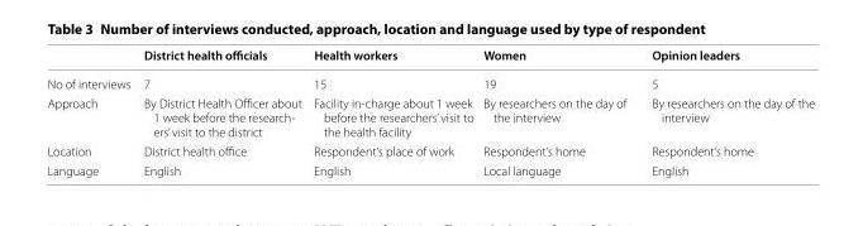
<table><thead><tr><td></td><td>District health officials</td><td>Health workers</td><td>Women</td><td>Opinion leaders</td></tr></thead><tbody><tr><td>No of interviews</td><td>7</td><td>15</td><td>19</td><td>5</td></tr><tr><td>Approach</td><td>By District Health Officer about 1 week before the research- ers’ visit to the district</td><td>Facility in-charge about 1 week before the researchers’ visit to the health facility</td><td>By researchers on the day of the interview</td><td>By researchers on the day of the interview</td></tr><tr><td>Location</td><td>District health office</td><td>Respondent’s place of work</td><td>Respondent’s home</td><td>Respondent’s home</td></tr><tr><td>Language</td><td>English</td><td>English</td><td>Local language</td><td>English</td></tr></tbody></table>